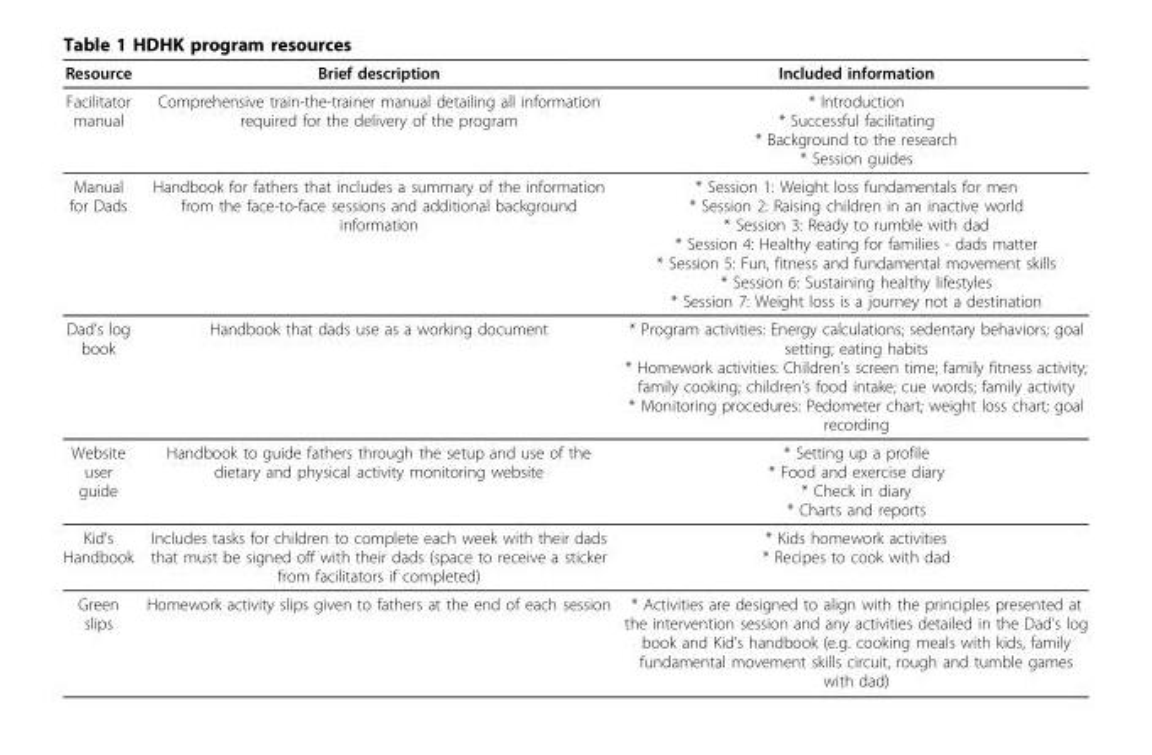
<table><thead><tr><td>Resource</td><td>Brief description</td><td>Included information</td></tr></thead><tbody><tr><td>Facilitator manual</td><td>Comprehensive train-the-trainer manual detailing all information required for the delivery of the program</td><td>* Introduction * Successful facilitating * Background to the research * Session guides</td></tr><tr><td>Manual for Dads</td><td>Handbook for fathers that includes a summary of the information from the face-to-face sessions and additional background information</td><td>* Session 1: Weight loss fundamentals for men * Session 2: Raising children in an inactive world * Session 3: Ready to rumble with dad * Session 4: Healthy eating for families - dads matter * Session 5: Fun, fitness and fundamental movement skills * Session 6: Sustaining healthy lifestyles * Session 7: Weight loss is a journey not a destination</td></tr><tr><td>Dad’s log book</td><td>Handbook that dads use as a working document</td><td>* Program activities: Energy calculations; sedentary behaviors; goal setting; eating habits * Homework activities: Children’s screen time; family fitness activity; family cooking; children’s food intake; cue words; family activity * Monitoring procedures: Pedometer chart; weight loss chart; goal recording</td></tr><tr><td>Website user guide</td><td>Handbook to guide fathers through the setup and use of the dietary and physical activity monitoring website</td><td>* Setting up a profile * Food and exercise diary * Check in diary * Charts and reports</td></tr><tr><td>Kid’s Handbook</td><td>Includes tasks for children to complete each week with their dads that must be signed off with their dads (space to receive a sticker from facilitators if completed)</td><td>* Kids homework activities * Recipes to cook with dad</td></tr><tr><td>Green slips</td><td>Homework activity slips given to fathers at the end of each session</td><td>* Activities are designed to align with the principles presented at the intervention session and any activities detailed in the Dad’s log book and Kid’s handbook (e.g. cooking meals with kids, family fundamental movement skills circuit, rough and tumble games with dad)</td></tr></tbody></table>